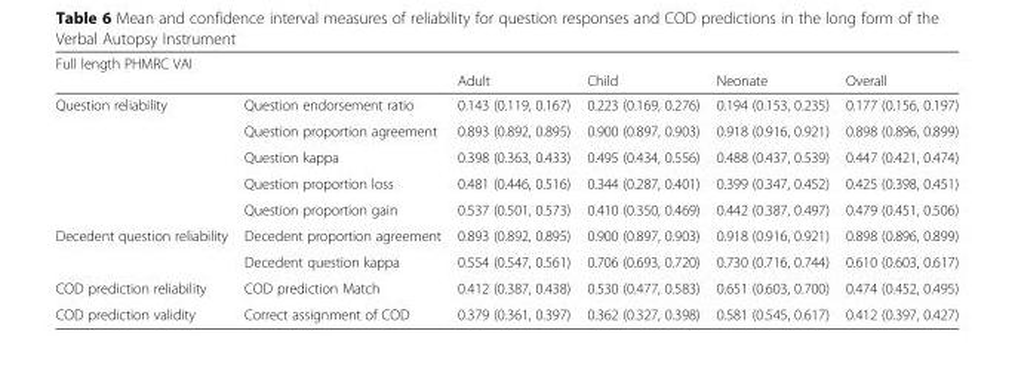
<table><thead><tr><td colspan="6">Full length PHMRC VAI</td></tr><tr><td></td><td></td><td>Adult</td><td>Child</td><td>Neonate</td><td>Overall</td></tr></thead><tbody><tr><td rowspan="5">Question reliability</td><td>Question endorsement ratio</td><td>0.143 (0.119, 0.167)</td><td>0.223 (0.169, 0.276)</td><td>0.194 (0.153, 0.235)</td><td>0.177 (0.156, 0.197)</td></tr><tr><td>Question proportion agreement</td><td>0.893 (0.892, 0.895)</td><td>0.900 (0.897, 0.903)</td><td>0.918 (0.916, 0.921)</td><td>0.898 (0.896, 0.899)</td></tr><tr><td>Question kappa</td><td>0.398 (0.363, 0.433)</td><td>0.495 (0.434, 0.556)</td><td>0.488 (0.437, 0.539)</td><td>0.447 (0.421, 0.474)</td></tr><tr><td>Question proportion loss</td><td>0.481 (0.446, 0.516)</td><td>0.344 (0.287, 0.401)</td><td>0.399 (0.347, 0.452)</td><td>0.425 (0.398, 0.451)</td></tr><tr><td>Question proportion gain</td><td>0.537 (0.501, 0.573)</td><td>0.410 (0.350, 0.469)</td><td>0.442 (0.387, 0.497)</td><td>0.479 (0.451, 0.506)</td></tr><tr><td rowspan="2">Decedent question reliability</td><td>Decedent proportion agreement</td><td>0.893 (0.892, 0.895)</td><td>0.900 (0.897, 0.903)</td><td>0.918 (0.916, 0.921)</td><td>0.898 (0.896, 0.899)</td></tr><tr><td>Decedent question kappa</td><td>0.554 (0.547, 0.561)</td><td>0.706 (0.693, 0.720)</td><td>0.730 (0.716, 0.744)</td><td>0.610 (0.603, 0.617)</td></tr><tr><td>COD prediction reliability</td><td>COD prediction Match</td><td>0.412 (0.387, 0.438)</td><td>0.530 (0.477, 0.583)</td><td>0.651 (0.603, 0.700)</td><td>0.474 (0.452, 0.495)</td></tr><tr><td>COD prediction validity</td><td>Correct assignment of COD</td><td>0.379 (0.361, 0.397)</td><td>0.362 (0.327, 0.398)</td><td>0.581 (0.545, 0.617)</td><td>0.412 (0.397, 0.427)</td></tr></tbody></table>